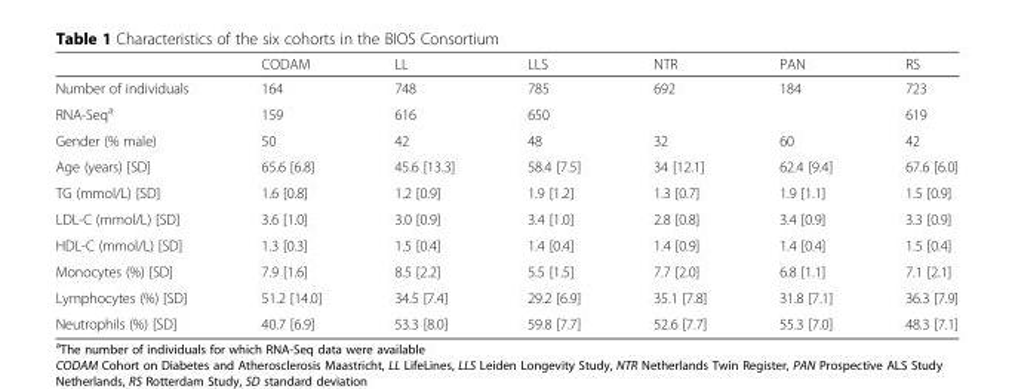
<table><thead><tr><td></td><td>CODAM</td><td>LL</td><td>LLS</td><td>NTR</td><td>PAN</td><td>RS</td></tr></thead><tbody><tr><td>Number of individuals</td><td>164</td><td>748</td><td>785</td><td>692</td><td>184</td><td>723</td></tr><tr><td>RNA-Seq<sup>a</sup></td><td>159</td><td>616</td><td>650</td><td></td><td></td><td>619</td></tr><tr><td>Gender (% male)</td><td>50</td><td>42</td><td>48</td><td>32</td><td>60</td><td>42</td></tr><tr><td>Age (years) [SD]</td><td>65.6 [6.8]</td><td>45.6 [13.3]</td><td>58.4 [7.5]</td><td>34 [12.1]</td><td>62.4 [9.4]</td><td>67.6 [6.0]</td></tr><tr><td>TG (mmol/L) [SD]</td><td>1.6 [0.8]</td><td>1.2 [0.9]</td><td>1.9 [1.2]</td><td>1.3 [0.7]</td><td>1.9 [1.1]</td><td>1.5 [0.9]</td></tr><tr><td>LDL-C (mmol/L) [SD]</td><td>3.6 [1.0]</td><td>3.0 [0.9]</td><td>3.4 [1.0]</td><td>2.8 [0.8]</td><td>3.4 [0.9]</td><td>3.3 [0.9]</td></tr><tr><td>HDL-C (mmol/L) [SD]</td><td>1.3 [0.3]</td><td>1.5 [0.4]</td><td>1.4 [0.4]</td><td>1.4 [0.9]</td><td>1.4 [0.4]</td><td>1.5 [0.4]</td></tr><tr><td>Monocytes (%) [SD]</td><td>7.9 [1.6]</td><td>8.5 [2.2]</td><td>5.5 [1.5]</td><td>7.7 [2.0]</td><td>6.8 [1.1]</td><td>7.1 [2.1]</td></tr><tr><td>Lymphocytes (%) [SD]</td><td>51.2 [14.0]</td><td>34.5 [7.4]</td><td>29.2 [6.9]</td><td>35.1 [7.8]</td><td>31.8 [7.1]</td><td>36.3 [7.9]</td></tr><tr><td>Neutrophils (%) [SD]</td><td>40.7 [6.9]</td><td>53.3 [8.0]</td><td>59.8 [7.7]</td><td>52.6 [7.7]</td><td>55.3 [7.0]</td><td>48.3 [7.1]</td></tr></tbody></table>